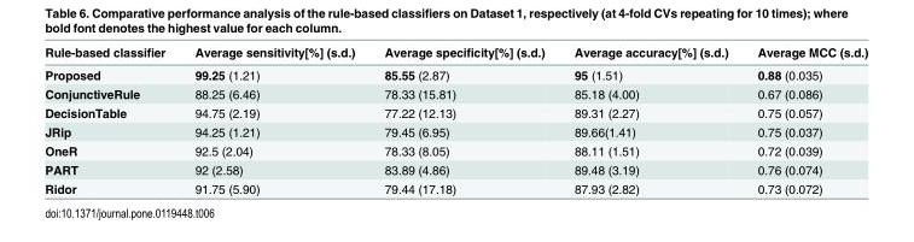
<table><thead><tr><td>Rule-based classifier</td><td>Average sensitivity[%] (s.d.)</td><td>Average specificity[%] (s.d.)</td><td>Average accuracy[%] (s.d.)</td><td>Average MCC (s.d.)</td></tr></thead><tbody><tr><td>Proposed</td><td>99.25 (1.21)</td><td>85.55 (2.87)</td><td>95 (1.51)</td><td>0.88 (0.035)</td></tr><tr><td>ConjunctiveRule</td><td>88.25 (6.46)</td><td>78.33 (15.81)</td><td>85.18 (4.00)</td><td>0.67 (0.086)</td></tr><tr><td>DecisionTable</td><td>94.75 (2.19)</td><td>77.22 (12.13)</td><td>89.31 (2.27)</td><td>0.75 (0.057)</td></tr><tr><td>JRip</td><td>94.25 (1.21)</td><td>79.45 (6.95)</td><td>89.66(1.41)</td><td>0.75 (0.037)</td></tr><tr><td>OneR</td><td>92.5 (2.04)</td><td>78.33 (8.05)</td><td>88.11 (1.51)</td><td>0.72 (0.039)</td></tr><tr><td>PART</td><td>92 (2.58)</td><td>83.89 (4.86)</td><td>89.48 (3.19)</td><td>0.76 (0.074)</td></tr><tr><td>Ridor</td><td>91.75 (5.90)</td><td>79.44 (17.18)</td><td>87.93 (2.82)</td><td>0.73 (0.072)</td></tr></tbody></table>